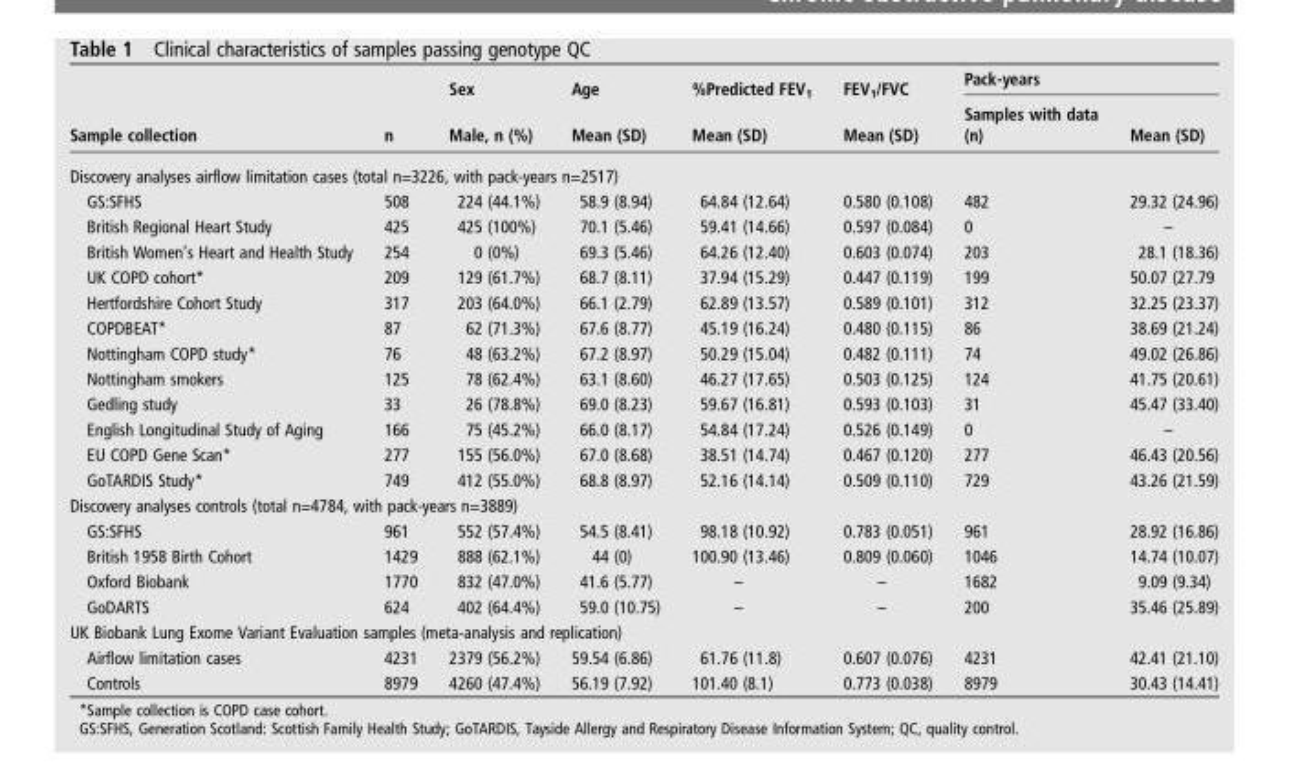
<table><thead><tr><td rowspan="2">Sample collection</td><td rowspan="2">n</td><td rowspan="2">Sex Male, n (%)</td><td rowspan="2">Age Mean (SD)</td><td rowspan="2">%Predicted FEV<sub>1</sub> Mean (SD)</td><td rowspan="2">FEV<sub>1</sub>/FVC Mean (SD)</td><td colspan="2">Pack-years</td></tr><tr><td>Samples with data (n)</td><td>Mean (SD)</td></tr></thead><tbody><tr><td colspan="8">Discovery analyses airflow limitation cases (total n=3226, with pack-years n=2517)</td></tr><tr><td>GS:SFHS</td><td>508</td><td>224 (44.1%)</td><td>58.9 (8.94)</td><td>64.84 (12.64)</td><td>0.580 (0.108)</td><td>482</td><td>29.32 (24.96)</td></tr><tr><td>British Regional Heart Study</td><td>425</td><td>425 (100%)</td><td>70.1 (5.46)</td><td>59.41 (14.66)</td><td>0.597 (0.084)</td><td>0</td><td>–</td></tr><tr><td>British Women’s Heart and Health Study</td><td>254</td><td>0 (0%)</td><td>69.3 (5.46)</td><td>64.26 (12.40)</td><td>0.603 (0.074)</td><td>203</td><td>28.1 (18.36)</td></tr><tr><td>UK COPD cohort*</td><td>209</td><td>129 (61.7%)</td><td>68.7 (8.11)</td><td>37.94 (15.29)</td><td>0.447 (0.119)</td><td>199</td><td>50.07 (27.79</td></tr><tr><td>Hertfordshire Cohort Study</td><td>317</td><td>203 (64.0%)</td><td>66.1 (2.79)</td><td>62.89 (13.57)</td><td>0.589 (0.101)</td><td>312</td><td>32.25 (23.37)</td></tr><tr><td>COPDBEAT*</td><td>87</td><td>62 (71.3%)</td><td>67.6 (8.77)</td><td>45.19 (16.24)</td><td>0.480 (0.115)</td><td>86</td><td>38.69 (21.24)</td></tr><tr><td>Nottingham COPD study*</td><td>76</td><td>48 (63.2%)</td><td>67.2 (8.97)</td><td>50.29 (15.04)</td><td>0.482 (0.111)</td><td>74</td><td>49.02 (26.86)</td></tr><tr><td>Nottingham smokers</td><td>125</td><td>78 (62.4%)</td><td>63.1 (8.60)</td><td>46.27 (17.65)</td><td>0.503 (0.125)</td><td>124</td><td>41.75 (20.61)</td></tr><tr><td>Gedling study</td><td>33</td><td>26 (78.8%)</td><td>69.0 (8.23)</td><td>59.67 (16.81)</td><td>0.593 (0.103)</td><td>31</td><td>45.47 (33.40)</td></tr><tr><td>English Longitudinal Study of Aging</td><td>166</td><td>75 (45.2%)</td><td>66.0 (8.17)</td><td>54.84 (17.24)</td><td>0.526 (0.149)</td><td>0</td><td>–</td></tr><tr><td>EU COPD Gene Scan*</td><td>277</td><td>155 (56.0%)</td><td>67.0 (8.68)</td><td>38.51 (14.74)</td><td>0.467 (0.120)</td><td>277</td><td>46.43 (20.56)</td></tr><tr><td>GoTARDIS Study*</td><td>749</td><td>412 (55.0%)</td><td>68.8 (8.97)</td><td>52.16 (14.14)</td><td>0.509 (0.110)</td><td>729</td><td>43.26 (21.59)</td></tr><tr><td colspan="8">Discovery analyses controls (total n=4784, with pack-years n=3889)</td></tr><tr><td>GS:SFHS</td><td>961</td><td>552 (57.4%)</td><td>54.5 (8.41)</td><td>98.18 (10.92)</td><td>0.783 (0.051)</td><td>961</td><td>28.92 (16.86)</td></tr><tr><td>British 1958 Birth Cohort</td><td>1429</td><td>888 (62.1%)</td><td>44 (0)</td><td>100.90 (13.46)</td><td>0.809 (0.060)</td><td>1046</td><td>14.74 (10.07)</td></tr><tr><td>Oxford Biobank</td><td>1770</td><td>832 (47.0%)</td><td>41.6 (5.77)</td><td>–</td><td>–</td><td>1682</td><td>9.09 (9.34)</td></tr><tr><td>GoDARTS</td><td>624</td><td>402 (64.4%)</td><td>59.0 (10.75)</td><td>–</td><td>–</td><td>200</td><td>35.46 (25.89)</td></tr><tr><td colspan="8">UK Biobank Lung Exome Variant Evaluation samples (meta-analysis and replication)</td></tr><tr><td>Airflow limitation cases</td><td>4231</td><td>2379 (56.2%)</td><td>59.54 (6.86)</td><td>61.76 (11.8)</td><td>0.607 (0.076)</td><td>4231</td><td>42.41 (21.10)</td></tr><tr><td>Controls</td><td>8979</td><td>4260 (47.4%)</td><td>56.19 (7.92)</td><td>101.40 (8.1)</td><td>0.773 (0.038)</td><td>8979</td><td>30.43 (14.41)</td></tr></tbody></table>